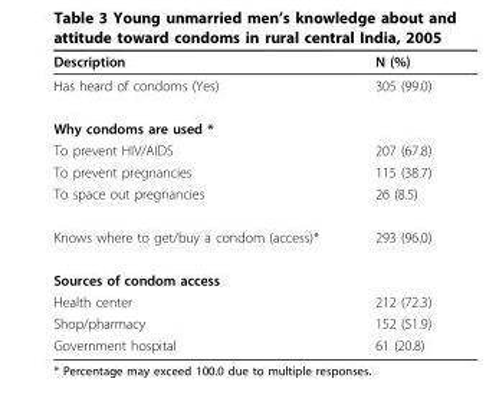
<table><thead><tr><td>Description</td><td>N (%)</td></tr></thead><tbody><tr><td>Has heard of condoms (Yes)</td><td>305 (99.0)</td></tr><tr><td colspan="2">Why condoms are used *</td></tr><tr><td>To prevent HIV/AIDS</td><td>207 (67.8)</td></tr><tr><td>To prevent pregnancies</td><td>115 (38.7)</td></tr><tr><td>To space out pregnancies</td><td>26 (8.5)</td></tr><tr><td>Knows where to get/buy a condom (access)*</td><td>293 (96.0)</td></tr><tr><td colspan="2">Sources of condom access</td></tr><tr><td>Health center</td><td>212 (72.3)</td></tr><tr><td>Shop/pharmacy</td><td>152 (51.9)</td></tr><tr><td>Government hospital</td><td>61 (20.8)</td></tr></tbody></table>